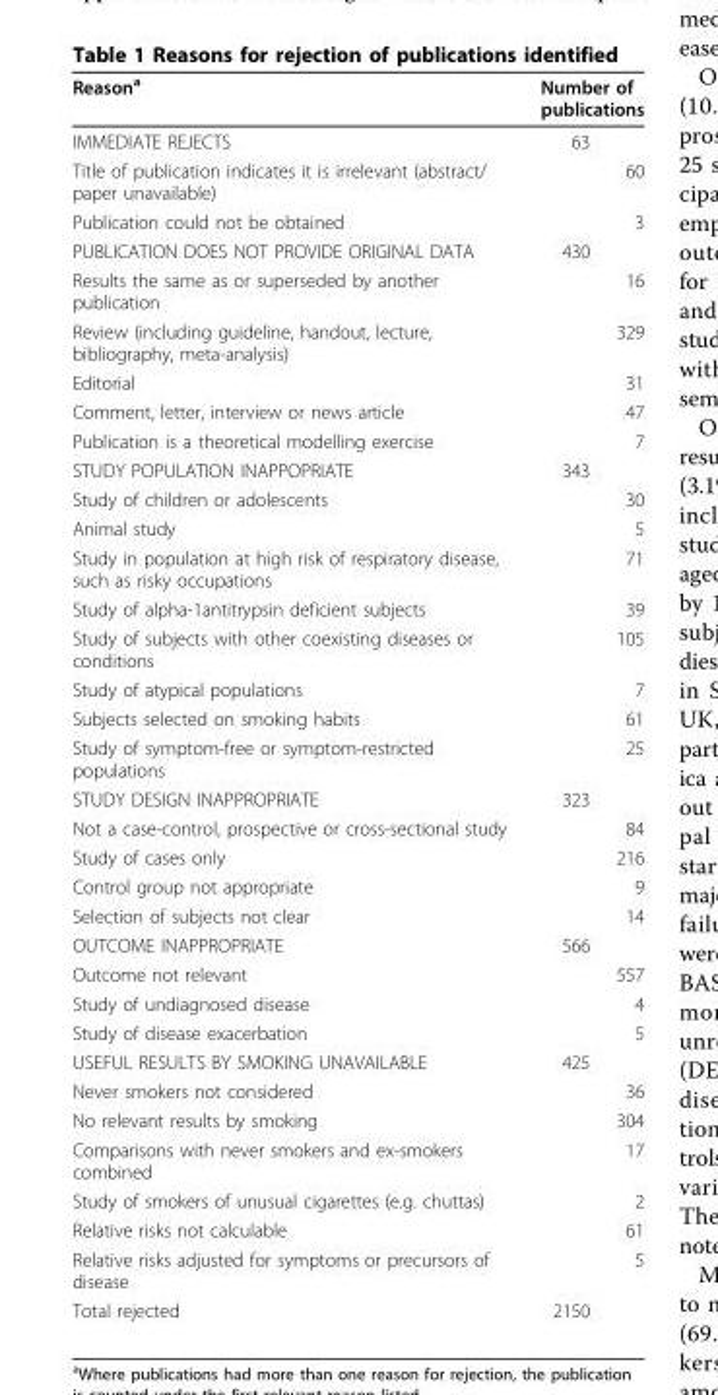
<table><thead><tr><td rowspan="2">Reason<sup>a</sup> IMMEDIATE REJECTS</td><td colspan="2">Number of publications</td></tr><tr><td>63</td><td></td></tr></thead><tbody><tr><td>Title of publication indicates it is irrelevant (abstract/ paper unavailable)</td><td></td><td>60</td></tr><tr><td>Publication could not be obtained</td><td></td><td>3</td></tr><tr><td>PUBLICATION DOES NOT PROVIDE ORIGINAL DATA</td><td>430</td><td></td></tr><tr><td>Results the same as or superseded by another publication</td><td></td><td>16</td></tr><tr><td>Review (including guideline, handout, lecture, bibliography, meta-analysis)</td><td></td><td>329</td></tr><tr><td>Editorial</td><td></td><td>31</td></tr><tr><td>Comment, letter, interview or news article</td><td></td><td>47</td></tr><tr><td>Publication is a theoretical modelling exercise</td><td></td><td>7</td></tr><tr><td>STUDY POPULATION INAPPOPRIATE</td><td>343</td><td></td></tr><tr><td>Study of children or adolescents</td><td></td><td>30</td></tr><tr><td>Animal study</td><td></td><td>5</td></tr><tr><td>Study in population at high risk of respiratory disease, such as risky occupations</td><td></td><td>71</td></tr><tr><td>Study of alpha-1antitrypsin deficient subjects</td><td></td><td>39</td></tr><tr><td>Study of subjects with other coexisting diseases or conditions</td><td></td><td>105</td></tr><tr><td>Study of atypical populations</td><td></td><td>7</td></tr><tr><td>Subjects selected on smoking habits</td><td></td><td>61</td></tr><tr><td>Study of symptom-free or symptom-restricted populations</td><td></td><td>25</td></tr><tr><td>STUDY DESIGN INAPPROPRIATE</td><td>323</td><td></td></tr><tr><td>Not a case-control, prospective or cross-sectional study</td><td></td><td>84</td></tr><tr><td>Study of cases only</td><td></td><td>216</td></tr><tr><td>Control group not appropriate</td><td></td><td>9</td></tr><tr><td>Selection of subjects not clear</td><td></td><td>14</td></tr><tr><td>OUTCOME INAPPROPRIATE</td><td>566</td><td></td></tr><tr><td>Outcome not relevant</td><td></td><td>557</td></tr><tr><td>Study of undiagnosed disease</td><td></td><td>4</td></tr><tr><td>Study of disease exacerbation</td><td></td><td>5</td></tr><tr><td>USEFUL RESULTS BY SMOKING UNAVAILABLE</td><td>425</td><td></td></tr><tr><td>Never smokers not considered</td><td></td><td>36</td></tr><tr><td>No relevant results by smoking</td><td></td><td>304</td></tr><tr><td>Comparisons with never smokers and ex-smokers combined</td><td></td><td>17</td></tr><tr><td>Study of smokers of unusual cigarettes (e.g. chuttas)</td><td></td><td>2</td></tr><tr><td>Relative risks not calculable</td><td></td><td>61</td></tr><tr><td>Relative risks adjusted for symptoms or precursors of disease</td><td></td><td>5</td></tr><tr><td>Total rejected</td><td>2150</td><td></td></tr></tbody></table>